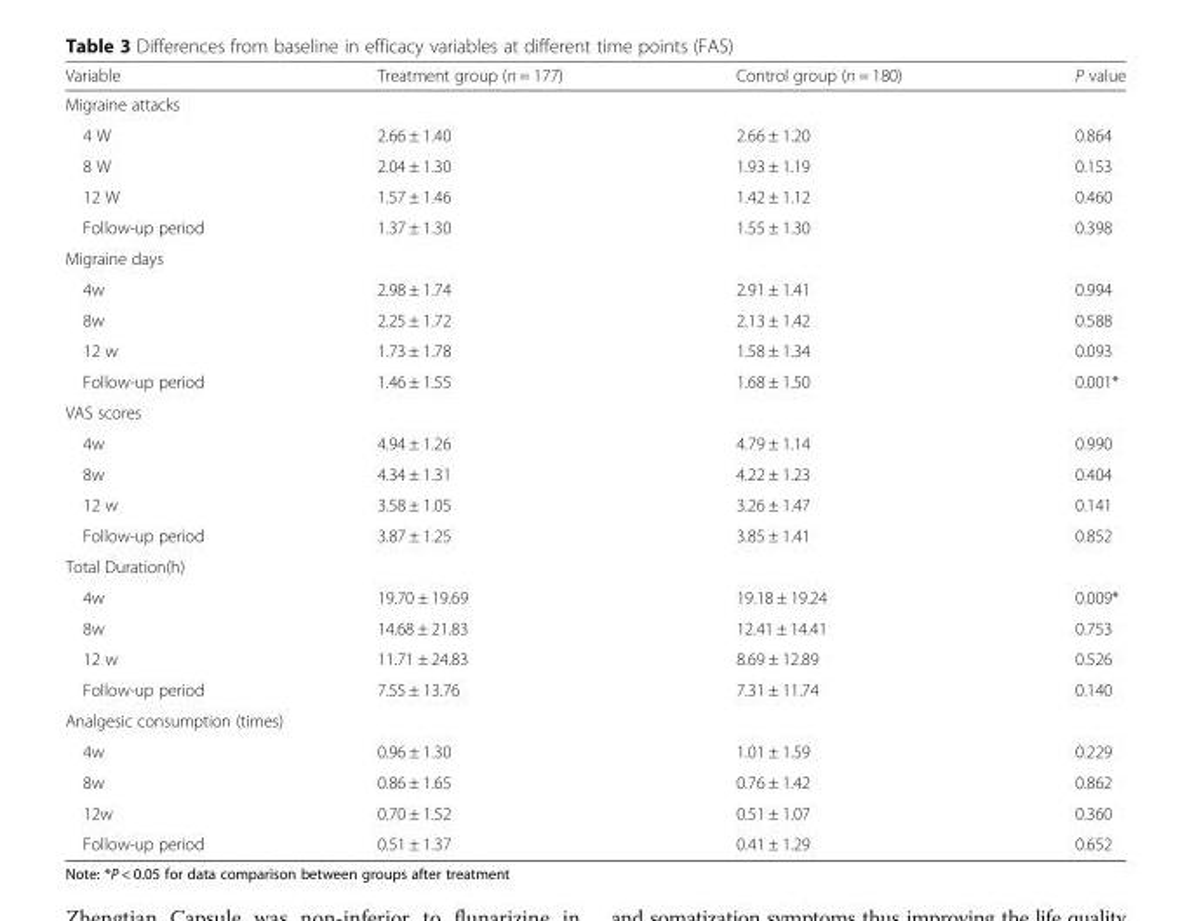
<table><thead><tr><td>Variable</td><td>Treatment group (n = 177)</td><td>Control group (n = 180)</td><td>P value</td></tr></thead><tbody><tr><td colspan="4">Migraine attacks</td></tr><tr><td>4 W</td><td>2.66 ± 1.40</td><td>2.66 ± 1.20</td><td>0.864</td></tr><tr><td>8 W</td><td>2.04 ± 1.30</td><td>1.93 ± 1.19</td><td>0.153</td></tr><tr><td>12 W</td><td>1.57 ± 1.46</td><td>1.42 ± 1.12</td><td>0.460</td></tr><tr><td>Follow-up period</td><td>1.37 ± 1.30</td><td>1.55 ± 1.30</td><td>0.398</td></tr><tr><td colspan="4">Migraine days</td></tr><tr><td>4w</td><td>2.98 ± 1.74</td><td>2.91 ± 1.41</td><td>0.994</td></tr><tr><td>8w</td><td>2.25 ± 1.72</td><td>2.13 ± 1.42</td><td>0.588</td></tr><tr><td>12 w</td><td>1.73 ± 1.78</td><td>1.58 ± 1.34</td><td>0.093</td></tr><tr><td>Follow-up period</td><td>1.46 ± 1.55</td><td>1.68 ± 1.50</td><td>0.001*</td></tr><tr><td colspan="4">VAS scores</td></tr><tr><td>4w</td><td>4.94 ± 1.26</td><td>4.79 ± 1.14</td><td>0.990</td></tr><tr><td>8w</td><td>4.34 ± 1.31</td><td>4.22 ± 1.23</td><td>0.404</td></tr><tr><td>12 w</td><td>3.58 ± 1.05</td><td>3.26 ± 1.47</td><td>0.141</td></tr><tr><td>Follow-up period</td><td>3.87 ± 1.25</td><td>3.85 ± 1.41</td><td>0.852</td></tr><tr><td colspan="4">Total Duration(h)</td></tr><tr><td>4w</td><td>19.70 ± 19.69</td><td>19.18 ± 19.24</td><td>0.009*</td></tr><tr><td>8w</td><td>14.68 ± 21.83</td><td>12.41 ± 14.41</td><td>0.753</td></tr><tr><td>12 w</td><td>11.71 ± 24.83</td><td>8.69 ± 12.89</td><td>0.526</td></tr><tr><td>Follow-up period</td><td>7.55 ± 13.76</td><td>7.31 ± 11.74</td><td>0.140</td></tr><tr><td colspan="4">Analgesic consumption (times)</td></tr><tr><td>4w</td><td>0.96 ± 1.30</td><td>1.01 ± 1.59</td><td>0.229</td></tr><tr><td>8w</td><td>0.86 ± 1.65</td><td>0.76 ± 1.42</td><td>0.862</td></tr><tr><td>12w</td><td>0.70 ± 1.52</td><td>0.51 ± 1.07</td><td>0.360</td></tr><tr><td>Follow-up period</td><td>0.51 ± 1.37</td><td>0.41 ± 1.29</td><td>0.652</td></tr></tbody></table>